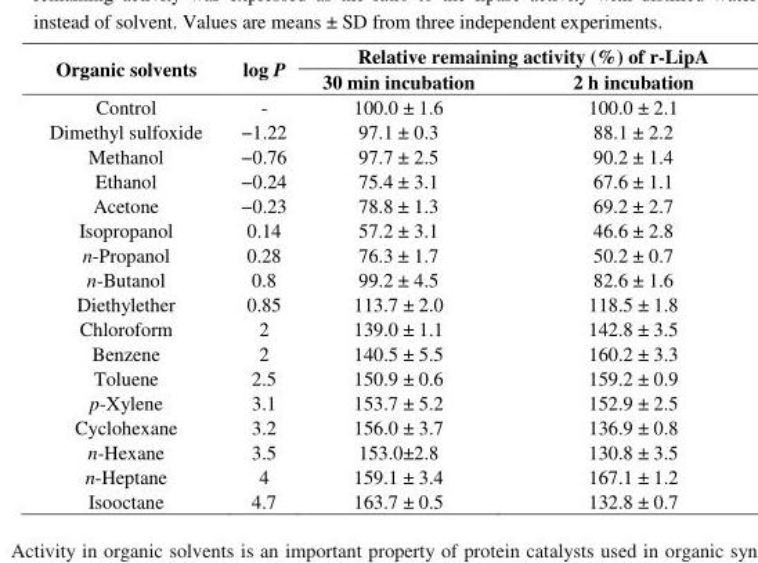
<table><thead><tr><td rowspan="2">Organic solvents</td><td rowspan="2">log P</td><td colspan="2">Relative remaining activity (%) of r-LipA</td></tr><tr><td>30 min incubation</td><td>2 h incubation</td></tr></thead><tbody><tr><td>Control</td><td>-</td><td>100.0 ± 1.6</td><td>100.0 ± 2.1</td></tr><tr><td>Dimethyl sulfoxide</td><td>−1.22</td><td>97.1 ± 0.3</td><td>88.1 ± 2.2</td></tr><tr><td>Methanol</td><td>−0.76</td><td>97.7 ± 2.5</td><td>90.2 ± 1.4</td></tr><tr><td>Ethanol</td><td>−0.24</td><td>75.4 ± 3.1</td><td>67.6 ± 1.1</td></tr><tr><td>Acetone</td><td>−0.23</td><td>78.8 ± 1.3</td><td>69.2 ± 2.7</td></tr><tr><td>Isopropanol</td><td>0.14</td><td>57.2 ± 3.1</td><td>46.6 ± 2.8</td></tr><tr><td>n-Propanol</td><td>0.28</td><td>76.3 ± 1.7</td><td>50.2 ± 0.7</td></tr><tr><td>n-Butanol</td><td>0.8</td><td>99.2 ± 4.5</td><td>82.6 ± 1.6</td></tr><tr><td>Diethylether</td><td>0.85</td><td>113.7 ± 2.0</td><td>118.5 ± 1.8</td></tr><tr><td>Chloroform</td><td>2</td><td>139.0 ± 1.1</td><td>142.8 ± 3.5</td></tr><tr><td>Benzene</td><td>2</td><td>140.5 ± 5.5</td><td>160.2 ± 3.3</td></tr><tr><td>Toluene</td><td>2.5</td><td>150.9 ± 0.6</td><td>159.2 ± 0.9</td></tr><tr><td>p-Xylene</td><td>3.1</td><td>153.7 ± 5.2</td><td>152.9 ± 2.5</td></tr><tr><td>Cyclohexane</td><td>3.2</td><td>156.0 ± 3.7</td><td>136.9 ± 0.8</td></tr><tr><td>n-Hexane</td><td>3.5</td><td>153.0±2.8</td><td>130.8 ± 3.5</td></tr><tr><td>n-Heptane</td><td>4</td><td>159.1 ± 3.4</td><td>167.1 ± 1.2</td></tr><tr><td>Isooctane</td><td>4.7</td><td>163.7 ± 0.5</td><td>132.8 ± 0.7</td></tr></tbody></table>